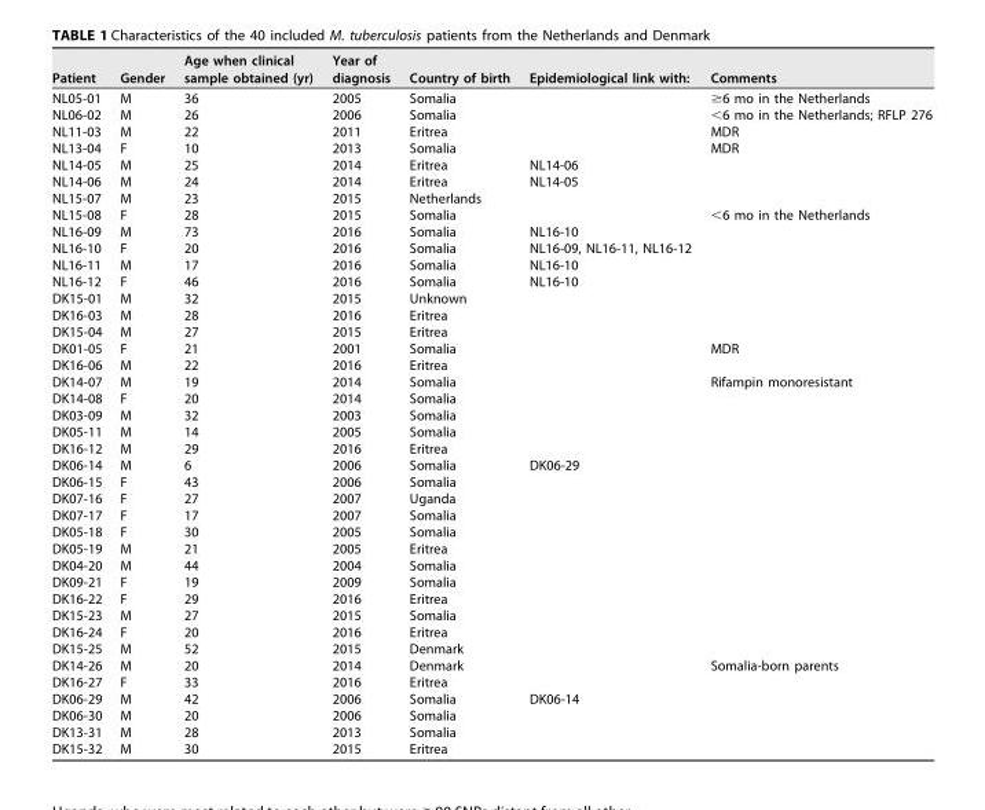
<table><thead><tr><td>Patient</td><td>Gender</td><td>Age when clinical sample obtained (yr)</td><td>Year of diagnosis</td><td>Country of birth</td><td>Epidemiological link with:</td><td>Comments</td></tr></thead><tbody><tr><td>NL05-01</td><td>M</td><td>36</td><td>2005</td><td>Somalia</td><td></td><td>≥6 mo in the Netherlands</td></tr><tr><td>NL06-02</td><td>M</td><td>26</td><td>2006</td><td>Somalia</td><td></td><td>&lt;6 mo in the Netherlands; RFLP 276</td></tr><tr><td>NL11-03</td><td>M</td><td>22</td><td>2011</td><td>Eritrea</td><td></td><td>MDR</td></tr><tr><td>NL13-04</td><td>F</td><td>10</td><td>2013</td><td>Somalia</td><td></td><td>MDR</td></tr><tr><td>NL14-05</td><td>M</td><td>25</td><td>2014</td><td>Eritrea</td><td>NL14-06</td><td></td></tr><tr><td>NL14-06</td><td>M</td><td>24</td><td>2014</td><td>Eritrea</td><td>NL14-05</td><td></td></tr><tr><td>NL15-07</td><td>M</td><td>23</td><td>2015</td><td>Netherlands</td><td></td><td></td></tr><tr><td>NL15-08</td><td>F</td><td>28</td><td>2015</td><td>Somalia</td><td></td><td>&lt;6 mo in the Netherlands</td></tr><tr><td>NL16-09</td><td>M</td><td>73</td><td>2016</td><td>Somalia</td><td>NL16-10</td><td></td></tr><tr><td>NL16-10</td><td>F</td><td>20</td><td>2016</td><td>Somalia</td><td>NL16-09, NL16-11, NL16-12</td><td></td></tr><tr><td>NL16-11</td><td>M</td><td>17</td><td>2016</td><td>Somalia</td><td>NL16-10</td><td></td></tr><tr><td>NL16-12</td><td>F</td><td>46</td><td>2016</td><td>Somalia</td><td>NL16-10</td><td></td></tr><tr><td>DK15-01</td><td>M</td><td>32</td><td>2015</td><td>Unknown</td><td></td><td></td></tr><tr><td>DK16-03</td><td>M</td><td>28</td><td>2016</td><td>Eritrea</td><td></td><td></td></tr><tr><td>DK15-04</td><td>M</td><td>27</td><td>2015</td><td>Eritrea</td><td></td><td></td></tr><tr><td>DK01-05</td><td>F</td><td>21</td><td>2001</td><td>Somalia</td><td></td><td>MDR</td></tr><tr><td>DK16-06</td><td>M</td><td>22</td><td>2016</td><td>Eritrea</td><td></td><td></td></tr><tr><td>DK14-07</td><td>M</td><td>19</td><td>2014</td><td>Somalia</td><td></td><td>Rifampin monoresistant</td></tr><tr><td>DK14-08</td><td>F</td><td>20</td><td>2014</td><td>Somalia</td><td></td><td></td></tr><tr><td>DK03-09</td><td>M</td><td>32</td><td>2003</td><td>Somalia</td><td></td><td></td></tr><tr><td>DK05-11</td><td>M</td><td>14</td><td>2005</td><td>Somalia</td><td></td><td></td></tr><tr><td>DK16-12</td><td>M</td><td>29</td><td>2016</td><td>Eritrea</td><td></td><td></td></tr><tr><td>DK06-14</td><td>M</td><td>6</td><td>2006</td><td>Somalia</td><td>DK06-29</td><td></td></tr><tr><td>DK06-15</td><td>F</td><td>43</td><td>2006</td><td>Somalia</td><td></td><td></td></tr><tr><td>DK07-16</td><td>F</td><td>27</td><td>2007</td><td>Uganda</td><td></td><td></td></tr><tr><td>DK07-17</td><td>F</td><td>17</td><td>2007</td><td>Somalia</td><td></td><td></td></tr><tr><td>DK05-18</td><td>F</td><td>30</td><td>2005</td><td>Somalia</td><td></td><td></td></tr><tr><td>DK05-19</td><td>M</td><td>21</td><td>2005</td><td>Eritrea</td><td></td><td></td></tr><tr><td>DK04-20</td><td>M</td><td>44</td><td>2004</td><td>Somalia</td><td></td><td></td></tr><tr><td>DK09-21</td><td>F</td><td>19</td><td>2009</td><td>Somalia</td><td></td><td></td></tr><tr><td>DK16-22</td><td>F</td><td>29</td><td>2016</td><td>Eritrea</td><td></td><td></td></tr><tr><td>DK15-23</td><td>M</td><td>27</td><td>2015</td><td>Somalia</td><td></td><td></td></tr><tr><td>DK16-24</td><td>F</td><td>20</td><td>2016</td><td>Eritrea</td><td></td><td></td></tr><tr><td>DK15-25</td><td>M</td><td>52</td><td>2015</td><td>Denmark</td><td></td><td></td></tr><tr><td>DK14-26</td><td>M</td><td>20</td><td>2014</td><td>Denmark</td><td></td><td>Somalia-born parents</td></tr><tr><td>DK16-27</td><td>F</td><td>33</td><td>2016</td><td>Eritrea</td><td></td><td></td></tr><tr><td>DK06-29</td><td>M</td><td>42</td><td>2006</td><td>Somalia</td><td>DK06-14</td><td></td></tr><tr><td>DK06-30</td><td>M</td><td>20</td><td>2006</td><td>Somalia</td><td></td><td></td></tr><tr><td>DK13-31</td><td>M</td><td>28</td><td>2013</td><td>Somalia</td><td></td><td></td></tr><tr><td>DK15-32</td><td>M</td><td>30</td><td>2015</td><td>Eritrea</td><td></td><td></td></tr></tbody></table>